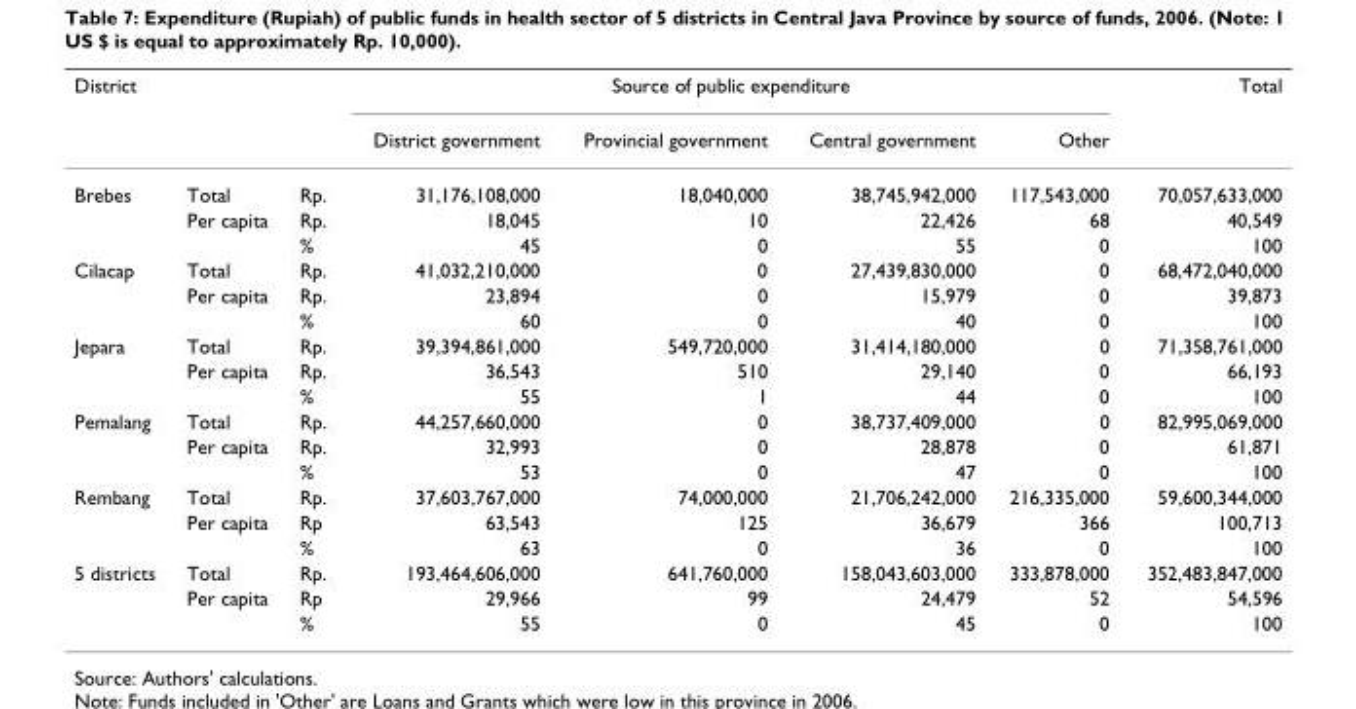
<table><thead><tr><td rowspan="2">District</td><td rowspan="2"></td><td rowspan="2"></td><td colspan="4">Source of public expenditure</td><td rowspan="2">Total</td></tr><tr><td>District government</td><td>Provincial government</td><td>Central government</td><td>Other</td></tr></thead><tbody><tr><td rowspan="3">Brebes</td><td>Total</td><td>Rp.</td><td>31,176,108,000</td><td>18,040,000</td><td>38,745,942,000</td><td>117,543,000</td><td>70,057,633,000</td></tr><tr><td>Per capita</td><td>Rp.</td><td>18,045</td><td>10</td><td>22,426</td><td>68</td><td>40,549</td></tr><tr><td></td><td>%</td><td>45</td><td>0</td><td>55</td><td>0</td><td>100</td></tr><tr><td rowspan="3">Cilacap</td><td>Total</td><td>Rp.</td><td>41,032,210,000</td><td>0</td><td>27,439,830,000</td><td>0</td><td>68,472,040,000</td></tr><tr><td>Per capita</td><td>Rp.</td><td>23,894</td><td>0</td><td>15,979</td><td>0</td><td>39,873</td></tr><tr><td></td><td>%</td><td>60</td><td>0</td><td>40</td><td>0</td><td>100</td></tr><tr><td rowspan="3">Jepara</td><td>Total</td><td>Rp.</td><td>39,394,861,000</td><td>549,720,000</td><td>31,414,180,000</td><td>0</td><td>71,358,761,000</td></tr><tr><td>Per capita</td><td>Rp.</td><td>36,543</td><td>510</td><td>29,140</td><td>0</td><td>66,193</td></tr><tr><td></td><td>%</td><td>55</td><td>1</td><td>44</td><td>0</td><td>100</td></tr><tr><td rowspan="3">Pemalang</td><td>Total</td><td>Rp.</td><td>44,257,660,000</td><td>0</td><td>38,737,409,000</td><td>0</td><td>82,995,069,000</td></tr><tr><td>Per capita</td><td>Rp.</td><td>32,993</td><td>0</td><td>28,878</td><td>0</td><td>61,871</td></tr><tr><td></td><td>%</td><td>53</td><td>0</td><td>47</td><td>0</td><td>100</td></tr><tr><td rowspan="3">Rembang</td><td>Total</td><td>Rp.</td><td>37,603,767,000</td><td>74,000,000</td><td>21,706,242,000</td><td>216,335,000</td><td>59,600,344,000</td></tr><tr><td>Per capita</td><td>Rp</td><td>63,543</td><td>125</td><td>36,679</td><td>366</td><td>100,713</td></tr><tr><td></td><td>%</td><td>63</td><td>0</td><td>36</td><td>0</td><td>100</td></tr><tr><td rowspan="3">5 districts</td><td>Total</td><td>Rp.</td><td>193,464,606,000</td><td>641,760,000</td><td>158,043,603,000</td><td>333,878,000</td><td>352,483,847,000</td></tr><tr><td>Per capita</td><td>Rp</td><td>29,966</td><td>99</td><td>24,479</td><td>52</td><td>54,596</td></tr><tr><td></td><td>%</td><td>55</td><td>0</td><td>45</td><td>0</td><td>100</td></tr></tbody></table>